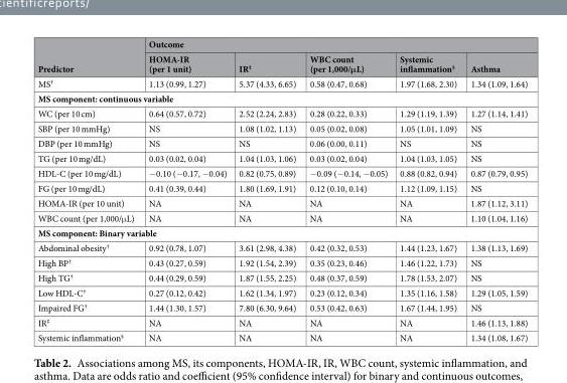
<table><thead><tr><td rowspan="2">Predictor</td><td colspan="5">Outcome</td></tr><tr><td>HOMA-IR (per 1 unit)</td><td>IR<sup>‡</sup></td><td>WBC count (per 1,000/μL)</td><td>Systemic inflammation<sup>§</sup></td><td>Asthma</td></tr></thead><tbody><tr><td>MS<sup>†</sup></td><td>1.13 (0.99, 1.27)</td><td>5.37 (4.33, 6.65)</td><td>0.58 (0.47, 0.68)</td><td>1.97 (1.68, 2.30)</td><td>1.34 (1.09, 1.64)</td></tr><tr><td colspan="6">MS component: continuous variable</td></tr><tr><td>WC (per 10 cm)</td><td>0.64 (0.57, 0.72)</td><td>2.52 (2.24, 2.83)</td><td>0.28 (0.22, 0.33)</td><td>1.29 (1.19, 1.39)</td><td>1.27 (1.14, 1.41)</td></tr><tr><td>SBP (per 10 mmHg)</td><td>NS</td><td>1.08 (1.02, 1.13)</td><td>0.05 (0.02, 0.08)</td><td>1.05 (1.01, 1.09)</td><td>NS</td></tr><tr><td>DBP (per 10 mmHg)</td><td>NS</td><td>NS</td><td>0.06 (0.00, 0.11)</td><td>NS</td><td>NS</td></tr><tr><td>TG (per 10 mg/dL)</td><td>0.03 (0.02, 0.04)</td><td>1.04 (1.03, 1.06)</td><td>0.03 (0.02, 0.04)</td><td>1.04 (1.03, 1.05)</td><td>NS</td></tr><tr><td>HDL-C (per 10 mg/dL)</td><td>−0.10 (−0.17, −0.04)</td><td>0.82 (0.75, 0.89)</td><td>−0.09 (−0.14, −0.05)</td><td>0.88 (0.82, 0.94)</td><td>0.87 (0.79, 0.95)</td></tr><tr><td>FG (per 10 mg/dL)</td><td>0.41 (0.39, 0.44)</td><td>1.80 (1.69, 1.91)</td><td>0.12 (0.10, 0.14)</td><td>1.12 (1.09, 1.15)</td><td>NS</td></tr><tr><td>HOMA-IR (per 10 unit)</td><td>NA</td><td>NA</td><td>NA</td><td>NA</td><td>1.87 (1.12, 3.11)</td></tr><tr><td>WBC count (per 1,000/μL)</td><td>NA</td><td>NA</td><td>NA</td><td>NA</td><td>1.10 (1.04, 1.16)</td></tr><tr><td colspan="6">MS component: Binary variable</td></tr><tr><td>Abdominal obesity<sup>†</sup></td><td>0.92 (0.78, 1.07)</td><td>3.61 (2.98, 4.38)</td><td>0.42 (0.32, 0.53)</td><td>1.44 (1.23, 1.67)</td><td>1.38 (1.13, 1.69)</td></tr><tr><td>High BP<sup>†</sup></td><td>0.43 (0.27, 0.59)</td><td>1.92 (1.54, 2.39)</td><td>0.35 (0.23, 0.46)</td><td>1.46 (1.22, 1.73)</td><td>NS</td></tr><tr><td>High TG<sup>†</sup></td><td>0.44 (0.29, 0.59)</td><td>1.87 (1.55, 2.25)</td><td>0.48 (0.37, 0.59)</td><td>1.78 (1.53, 2.07)</td><td>NS</td></tr><tr><td>Low HDL-C<sup>†</sup></td><td>0.27 (0.12, 0.42)</td><td>1.62 (1.34, 1.97)</td><td>0.23 (0.12, 0.34)</td><td>1.35 (1.16, 1.58)</td><td>1.29 (1.05, 1.59)</td></tr><tr><td>Impaired FG<sup>†</sup></td><td>1.44 (1.30, 1.57)</td><td>7.80 (6.30, 9.64)</td><td>0.53 (0.42, 0.63)</td><td>1.67 (1.44, 1.95)</td><td>NS</td></tr><tr><td>IR<sup>‡</sup></td><td>NA</td><td>NA</td><td>NA</td><td>NA</td><td>1.46 (1.13, 1.88)</td></tr><tr><td>Systemic inflammation<sup>§</sup></td><td>NA</td><td>NA</td><td>NA</td><td>NA</td><td>1.34 (1.08, 1.67)</td></tr></tbody></table>